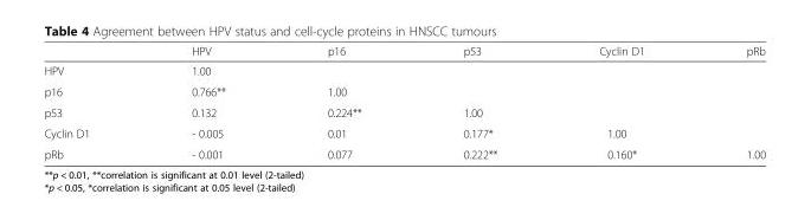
<table><thead><tr><td></td><td>HPV</td><td>p16</td><td>p53</td><td>Cyclin D1</td><td>pRb</td></tr></thead><tbody><tr><td>HPV</td><td>1.00</td><td></td><td></td><td></td><td></td></tr><tr><td>p16</td><td>0.766**</td><td>1.00</td><td></td><td></td><td></td></tr><tr><td>p53</td><td>0.132</td><td>0.224**</td><td>1.00</td><td></td><td></td></tr><tr><td>Cyclin D1</td><td>- 0.005</td><td>0.01</td><td>0.177*</td><td>1.00</td><td></td></tr><tr><td>pRb</td><td>- 0.001</td><td>0.077</td><td>0.222**</td><td>0.160*</td><td>1.00</td></tr></tbody></table>